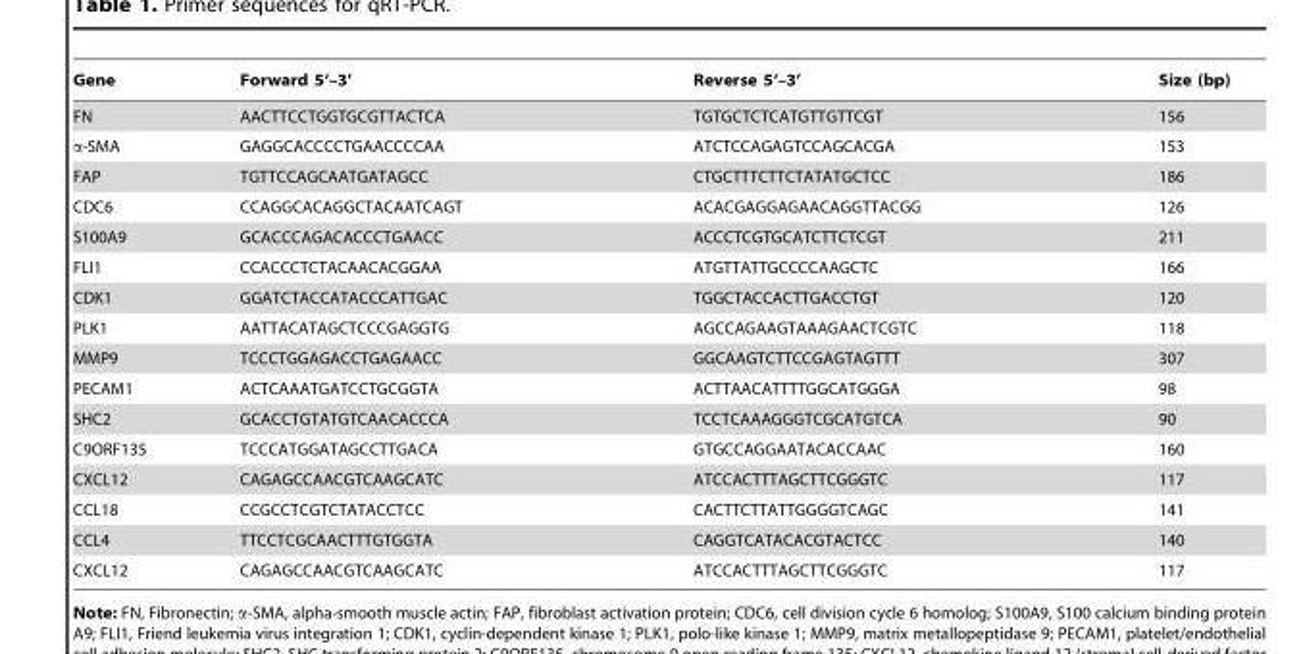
<table><thead><tr><td>Gene</td><td>Forward 5‘–3’</td><td>Reverse 5‘–3’</td><td>Size (bp)</td></tr></thead><tbody><tr><td>FN</td><td>AACTTCCTGGTGCGTTACTCA</td><td>TGTGCTCTCATGTTGTTCGT</td><td>156</td></tr><tr><td>α-SMA</td><td>GAGGCACCCCTGAACCCCAA</td><td>ATCTCCAGAGTCCAGCACGA</td><td>153</td></tr><tr><td>FAP</td><td>TGTTCCAGCAATGATAGCC</td><td>CTGCTTTCTTCTATATGCTCC</td><td>186</td></tr><tr><td>CDC6</td><td>CCAGGCACAGGCTACAATCAGT</td><td>ACACGAGGAGAACAGGTTACGG</td><td>126</td></tr><tr><td>S100A9</td><td>GCACCCAGACACCCTGAACC</td><td>ACCCTCGTGCATCTTCTCGT</td><td>211</td></tr><tr><td>FLI1</td><td>CCACCCTCTACAACACGGAA</td><td>ATGTTATTGCCCCAAGCTC</td><td>166</td></tr><tr><td>CDK1</td><td>GGATCTACCATACCCATTGAC</td><td>TGGCTACCACTTGACCTGT</td><td>120</td></tr><tr><td>PLK1</td><td>AATTACATAGCTCCCGAGGTG</td><td>AGCCAGAAGTAAAGAACTCGTC</td><td>118</td></tr><tr><td>MMP9</td><td>TCCCTGGAGACCTGAGAACC</td><td>GGCAAGTCTTCCGAGTAGTTT</td><td>307</td></tr><tr><td>PECAM1</td><td>ACTCAAATGATCCTGCGGTA</td><td>ACTTAACATTTTGGCATGGGA</td><td>98</td></tr><tr><td>SHC2</td><td>GCACCTGTATGTCAACACCCA</td><td>TCCTCAAAGGGTCGCATGTCA</td><td>90</td></tr><tr><td>C9ORF135</td><td>TCCCATGGATAGCCTTGACA</td><td>GTGCCAGGAATACACCAAC</td><td>160</td></tr><tr><td>CXCL12</td><td>CAGAGCCAACGTCAAGCATC</td><td>ATCCACTTTAGCTTCGGGTC</td><td>117</td></tr><tr><td>CCL18</td><td>CCGCCTCGTCTATACCTCC</td><td>CACTTCTTATTGGGGTCAGC</td><td>141</td></tr><tr><td>CCL4</td><td>TTCCTCGCAACTTTGTGGTA</td><td>CAGGTCATACACGTACTCC</td><td>140</td></tr><tr><td>CXCL12</td><td>CAGAGCCAACGTCAAGCATC</td><td>ATCCACTTTAGCTTCGGGTC</td><td>117</td></tr></tbody></table>